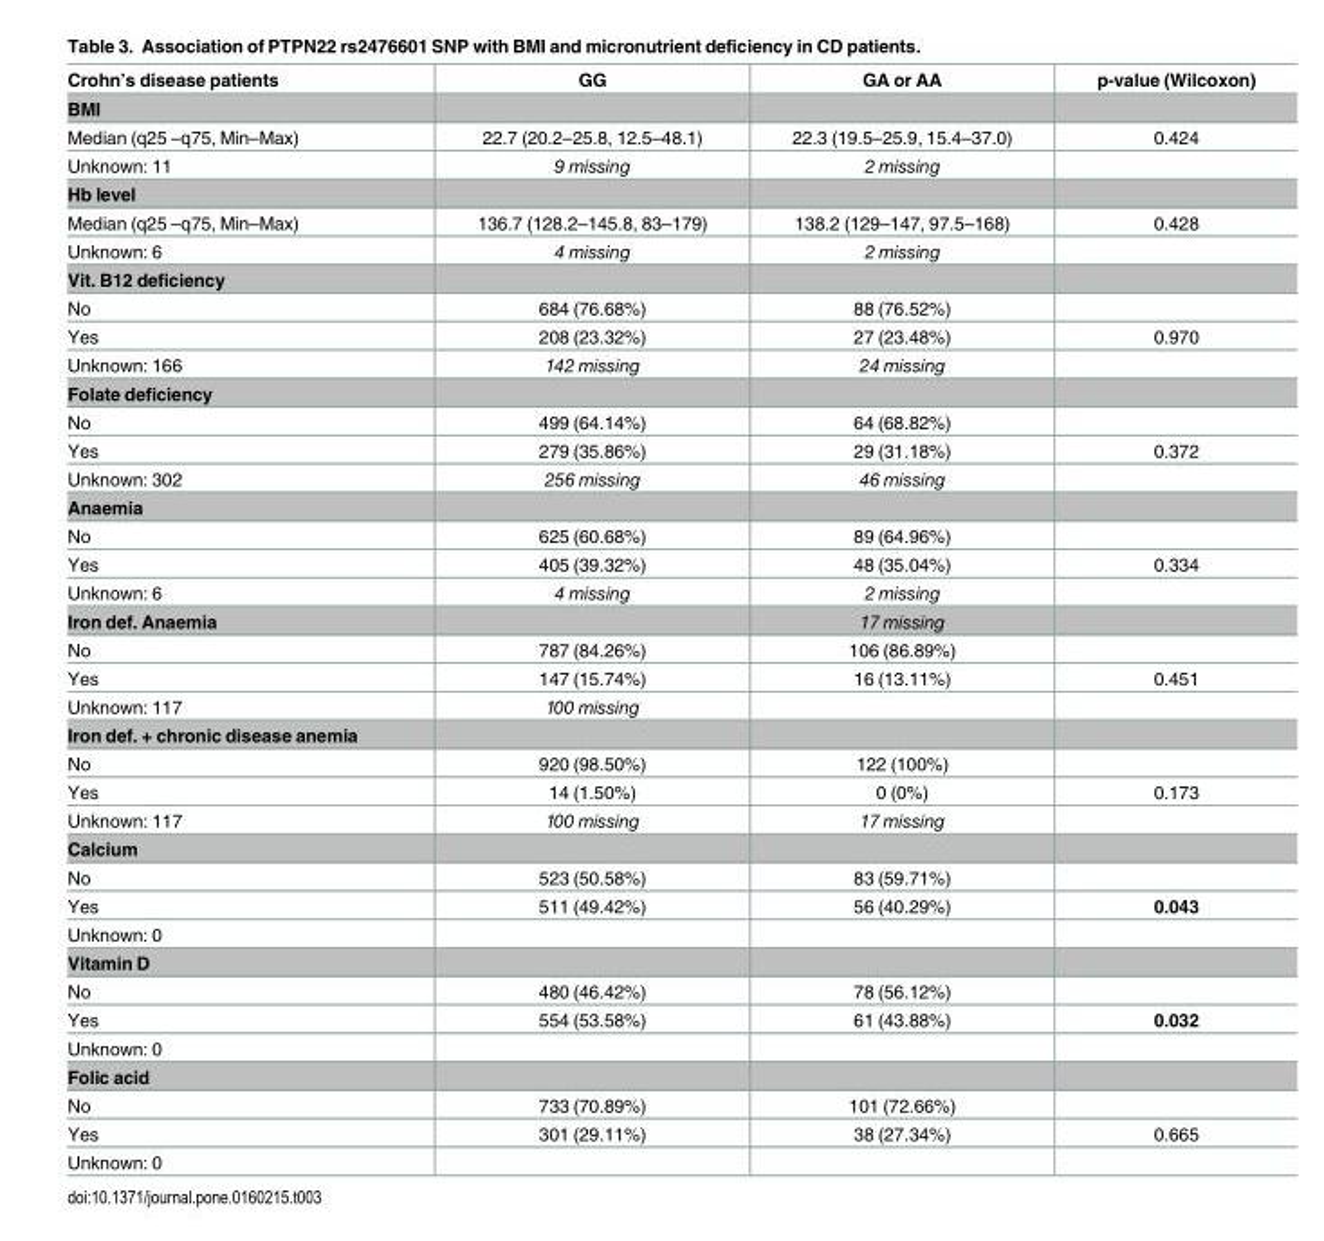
<table><thead><tr><td>Crohn’s disease patients</td><td>GG</td><td>GA or AA</td><td>p-value (Wilcoxon)</td></tr></thead><tbody><tr><td colspan="4">BMI</td></tr><tr><td>Median (q25 –q75, Min–Max)</td><td>22.7 (20.2–25.8, 12.5–48.1)</td><td>22.3 (19.5–25.9, 15.4–37.0)</td><td>0.424</td></tr><tr><td>Unknown: 11</td><td>9 missing</td><td>2 missing</td><td></td></tr><tr><td colspan="4">Hb level</td></tr><tr><td>Median (q25 –q75, Min–Max)</td><td>136.7 (128.2–145.8, 83–179)</td><td>138.2 (129–147, 97.5–168)</td><td>0.428</td></tr><tr><td>Unknown: 6</td><td>4 missing</td><td>2 missing</td><td></td></tr><tr><td colspan="4">Vit. B12 deficiency</td></tr><tr><td>No</td><td>684 (76.68%)</td><td>88 (76.52%)</td><td></td></tr><tr><td>Yes</td><td>208 (23.32%)</td><td>27 (23.48%)</td><td>0.970</td></tr><tr><td>Unknown: 166</td><td>142 missing</td><td>24 missing</td><td></td></tr><tr><td colspan="4">Folate deficiency</td></tr><tr><td>No</td><td>499 (64.14%)</td><td>64 (68.82%)</td><td></td></tr><tr><td>Yes</td><td>279 (35.86%)</td><td>29 (31.18%)</td><td>0.372</td></tr><tr><td>Unknown: 302</td><td>256 missing</td><td>46 missing</td><td></td></tr><tr><td colspan="4">Anaemia</td></tr><tr><td>No</td><td>625 (60.68%)</td><td>89 (64.96%)</td><td></td></tr><tr><td>Yes</td><td>405 (39.32%)</td><td>48 (35.04%)</td><td>0.334</td></tr><tr><td>Unknown: 6</td><td>4 missing</td><td>2 missing</td><td></td></tr><tr><td>Iron def. Anaemia</td><td></td><td>17 missing</td><td></td></tr><tr><td>No</td><td>787 (84.26%)</td><td>106 (86.89%)</td><td></td></tr><tr><td>Yes</td><td>147 (15.74%)</td><td>16 (13.11%)</td><td>0.451</td></tr><tr><td>Unknown: 117</td><td>100 missing</td><td></td><td></td></tr><tr><td colspan="4">Iron def. + chronic disease anemia</td></tr><tr><td>No</td><td>920 (98.50%)</td><td>122 (100%)</td><td></td></tr><tr><td>Yes</td><td>14 (1.50%)</td><td>0 (0%)</td><td>0.173</td></tr><tr><td>Unknown: 117</td><td>100 missing</td><td>17 missing</td><td></td></tr><tr><td colspan="4">Calcium</td></tr><tr><td>No</td><td>523 (50.58%)</td><td>83 (59.71%)</td><td></td></tr><tr><td>Yes</td><td>511 (49.42%)</td><td>56 (40.29%)</td><td>0.043</td></tr><tr><td colspan="4">Unknown: 0</td></tr><tr><td colspan="4">Vitamin D</td></tr><tr><td>No</td><td>480 (46.42%)</td><td>78 (56.12%)</td><td></td></tr><tr><td>Yes</td><td>554 (53.58%)</td><td>61 (43.88%)</td><td>0.032</td></tr><tr><td colspan="4">Unknown: 0</td></tr><tr><td colspan="4">Folic acid</td></tr><tr><td>No</td><td>733 (70.89%)</td><td>101 (72.66%)</td><td></td></tr><tr><td>Yes</td><td>301 (29.11%)</td><td>38 (27.34%)</td><td>0.665</td></tr><tr><td>Unknown: 0</td><td></td><td></td><td></td></tr></tbody></table>